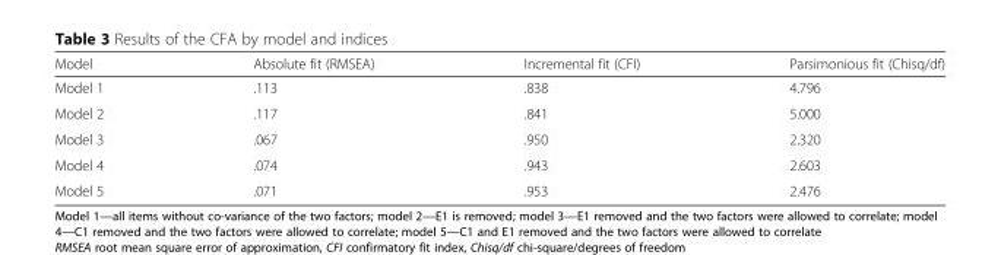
<table><thead><tr><td>Model</td><td>Absolute fit (RMSEA)</td><td>Incremental fit (CFI)</td><td>Parsimonious fit (Chisq/df)</td></tr></thead><tbody><tr><td>Model 1</td><td>.113</td><td>.838</td><td>4.796</td></tr><tr><td>Model 2</td><td>.117</td><td>.841</td><td>5.000</td></tr><tr><td>Model 3</td><td>.067</td><td>.950</td><td>2.320</td></tr><tr><td>Model 4</td><td>.074</td><td>.943</td><td>2.603</td></tr><tr><td>Model 5</td><td>.071</td><td>.953</td><td>2.476</td></tr></tbody></table>